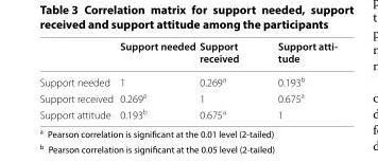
<table><thead><tr><td></td><td>Support needed</td><td>Support received</td><td>Support atti‑ tude</td></tr></thead><tbody><tr><td>Support needed</td><td>1</td><td>0.269<sup>a</sup></td><td>0.193<sup>b</sup></td></tr><tr><td>Support received</td><td>0.269<sup>a</sup></td><td>1</td><td>0.675<sup>a</sup></td></tr><tr><td>Support attitude</td><td>0.193<sup>b</sup></td><td>0.675<sup>a</sup></td><td>1</td></tr></tbody></table>